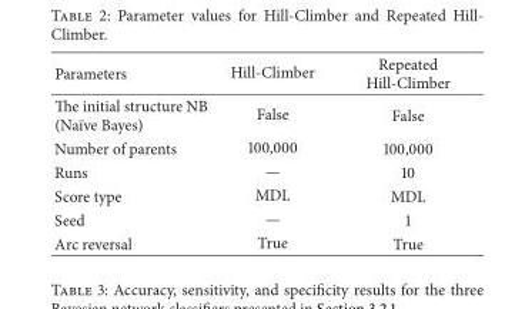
<table><thead><tr><td>Parameters</td><td>Hill-Climber</td><td>Repeated Hill-Climber</td></tr></thead><tbody><tr><td>The initial structure NB (Na¨ıve Bayes)</td><td>False</td><td>False</td></tr><tr><td>Number of parents</td><td>100,000</td><td>100,000</td></tr><tr><td>Runs</td><td>—</td><td>10</td></tr><tr><td>Score type</td><td>MDL</td><td>MDL</td></tr><tr><td>Seed</td><td>—</td><td>1</td></tr><tr><td>Arc reversal</td><td>True</td><td>True</td></tr></tbody></table>